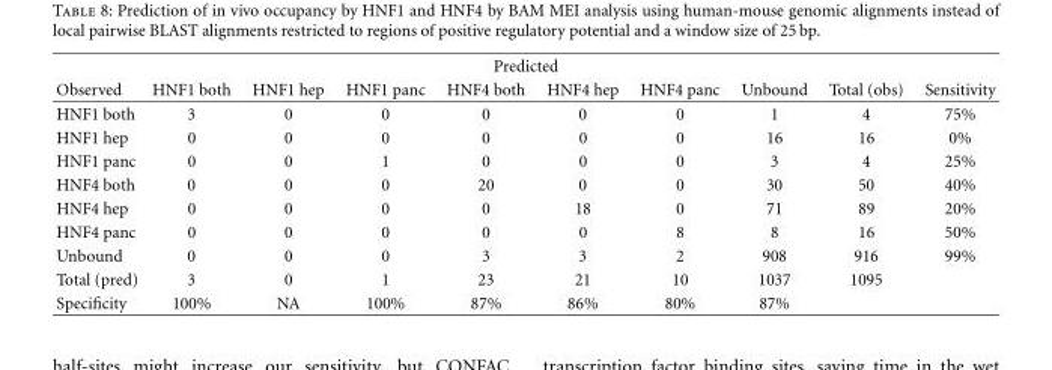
<table><thead><tr><td colspan="10">Predicted</td></tr><tr><td>Observed</td><td>HNF1 both</td><td>HNF1 hep</td><td>HNF1 panc</td><td>HNF4 both</td><td>HNF4 hep</td><td>HNF4 panc</td><td>Unbound</td><td>Total (obs)</td><td>Sensitivity</td></tr></thead><tbody><tr><td>HNF1 both</td><td>3</td><td>0</td><td>0</td><td>0</td><td>0</td><td>0</td><td>1</td><td>4</td><td>75%</td></tr><tr><td>HNF1 hep</td><td>0</td><td>0</td><td>0</td><td>0</td><td>0</td><td>0</td><td>16</td><td>16</td><td>0%</td></tr><tr><td>HNF1 panc</td><td>0</td><td>0</td><td>1</td><td>0</td><td>0</td><td>0</td><td>3</td><td>4</td><td>25%</td></tr><tr><td>HNF4 both</td><td>0</td><td>0</td><td>0</td><td>20</td><td>0</td><td>0</td><td>30</td><td>50</td><td>40%</td></tr><tr><td>HNF4 hep</td><td>0</td><td>0</td><td>0</td><td>0</td><td>18</td><td>0</td><td>71</td><td>89</td><td>20%</td></tr><tr><td>HNF4 panc</td><td>0</td><td>0</td><td>0</td><td>0</td><td>0</td><td>8</td><td>8</td><td>16</td><td>50%</td></tr><tr><td>Unbound</td><td>0</td><td>0</td><td>0</td><td>3</td><td>3</td><td>2</td><td>908</td><td>916</td><td>99%</td></tr><tr><td>Total (pred)</td><td>3</td><td>0</td><td>1</td><td>23</td><td>21</td><td>10</td><td>1037</td><td>1095</td><td></td></tr><tr><td>Specificity</td><td>100%</td><td>NA</td><td>100%</td><td>87%</td><td>86%</td><td>80%</td><td>87%</td><td></td><td></td></tr></tbody></table>